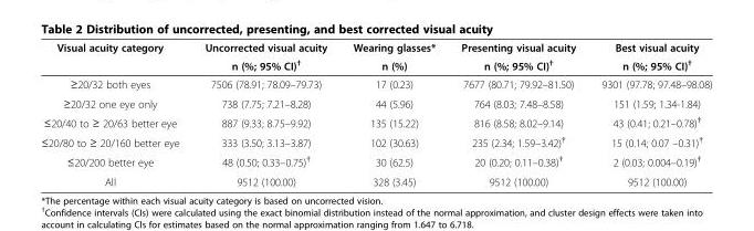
<table><thead><tr><td rowspan="2">Visual acuity category</td><td rowspan="2">Uncorrected visual acuity n (%; 95% CI)<sup>†</sup></td><td rowspan="2">Wearing glasses* n (%)</td><td rowspan="2">Presenting visual acuity n (%; 95% CI)<sup>†</sup></td><td rowspan="2">Best visual acuity n (%; 95% CI)<sup>†</sup></td></tr><tr></tr></thead><tbody><tr><td>≥20/32 both eyes</td><td>7506 (78.91; 78.09–79.73)</td><td>17 (0.23)</td><td>7677 (80.71; 79.92–81.50)</td><td>9301 (97.78; 97.48–98.08)</td></tr><tr><td>≥20/32 one eye only</td><td>738 (7.75; 7.21–8.28)</td><td>44 (5.96)</td><td>764 (8.03; 7.48–8.58)</td><td>151 (1.59; 1.34-1.84)</td></tr><tr><td>≤20/40 to ≥ 20/63 better eye</td><td>887 (9.33; 8.75–9.92)</td><td>135 (15.22)</td><td>816 (8.58; 8.02–9.14)</td><td>43 (0.41; 0.21–0.78)<sup>†</sup></td></tr><tr><td>≤20/80 to ≥ 20/160 better eye</td><td>333 (3.50; 3.13–3.87)</td><td>102 (30.63)</td><td>235 (2.34; 1.59–3.42)<sup>†</sup></td><td>15 (0.14; 0.07 –0.31)<sup>†</sup></td></tr><tr><td>≤20/200 better eye</td><td>48 (0.50; 0.33–0.75)<sup>†</sup></td><td>30 (62.5)</td><td>20 (0.20; 0.11–0.38)<sup>†</sup></td><td>2 (0.03; 0.004–0.19)<sup>†</sup></td></tr><tr><td>All</td><td>9512 (100.00)</td><td>328 (3.45)</td><td>9512 (100.00)</td><td>9512 (100.00)</td></tr></tbody></table>